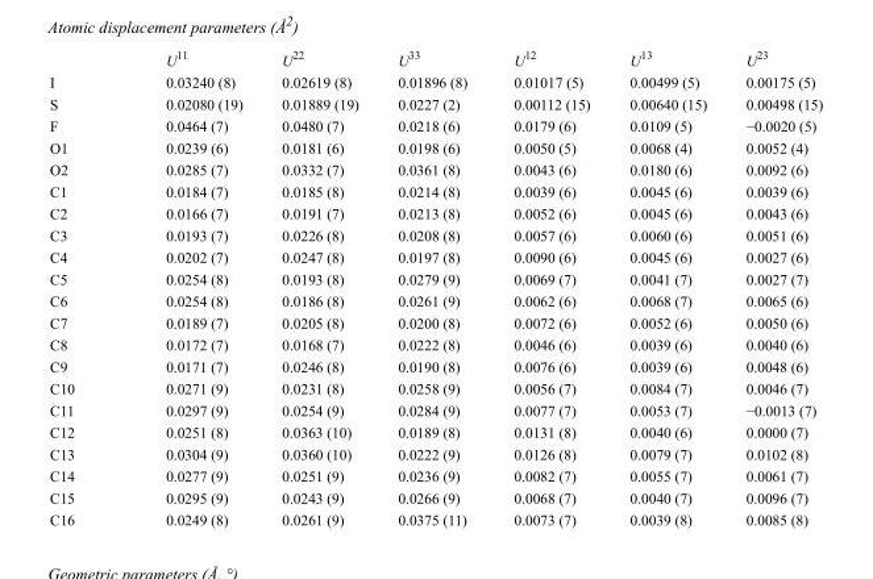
<table><thead><tr><td></td><td>U<sup>11</sup></td><td>U<sup>22</sup></td><td>U<sup>33</sup></td><td>U<sup>12</sup></td><td>U<sup>13</sup></td><td>U<sup>23</sup></td></tr></thead><tbody><tr><td>I</td><td>0.03240 (8)</td><td>0.02619 (8)</td><td>0.01896 (8)</td><td>0.01017 (5)</td><td>0.00499 (5)</td><td>0.00175 (5)</td></tr><tr><td>S</td><td>0.02080 (19)</td><td>0.01889 (19)</td><td>0.0227 (2)</td><td>0.00112 (15)</td><td>0.00640 (15)</td><td>0.00498 (15)</td></tr><tr><td>F</td><td>0.0464 (7)</td><td>0.0480 (7)</td><td>0.0218 (6)</td><td>0.0179 (6)</td><td>0.0109 (5)</td><td>−0.0020 (5)</td></tr><tr><td>O1</td><td>0.0239 (6)</td><td>0.0181 (6)</td><td>0.0198 (6)</td><td>0.0050 (5)</td><td>0.0068 (4)</td><td>0.0052 (4)</td></tr><tr><td>O2</td><td>0.0285 (7)</td><td>0.0332 (7)</td><td>0.0361 (8)</td><td>0.0043 (6)</td><td>0.0180 (6)</td><td>0.0092 (6)</td></tr><tr><td>C1</td><td>0.0184 (7)</td><td>0.0185 (8)</td><td>0.0214 (8)</td><td>0.0039 (6)</td><td>0.0045 (6)</td><td>0.0039 (6)</td></tr><tr><td>C2</td><td>0.0166 (7)</td><td>0.0191 (7)</td><td>0.0213 (8)</td><td>0.0052 (6)</td><td>0.0045 (6)</td><td>0.0043 (6)</td></tr><tr><td>C3</td><td>0.0193 (7)</td><td>0.0226 (8)</td><td>0.0208 (8)</td><td>0.0057 (6)</td><td>0.0060 (6)</td><td>0.0051 (6)</td></tr><tr><td>C4</td><td>0.0202 (7)</td><td>0.0247 (8)</td><td>0.0197 (8)</td><td>0.0090 (6)</td><td>0.0045 (6)</td><td>0.0027 (6)</td></tr><tr><td>C5</td><td>0.0254 (8)</td><td>0.0193 (8)</td><td>0.0279 (9)</td><td>0.0069 (7)</td><td>0.0041 (7)</td><td>0.0027 (7)</td></tr><tr><td>C6</td><td>0.0254 (8)</td><td>0.0186 (8)</td><td>0.0261 (9)</td><td>0.0062 (6)</td><td>0.0068 (7)</td><td>0.0065 (6)</td></tr><tr><td>C7</td><td>0.0189 (7)</td><td>0.0205 (8)</td><td>0.0200 (8)</td><td>0.0072 (6)</td><td>0.0052 (6)</td><td>0.0050 (6)</td></tr><tr><td>C8</td><td>0.0172 (7)</td><td>0.0168 (7)</td><td>0.0222 (8)</td><td>0.0046 (6)</td><td>0.0039 (6)</td><td>0.0040 (6)</td></tr><tr><td>C9</td><td>0.0171 (7)</td><td>0.0246 (8)</td><td>0.0190 (8)</td><td>0.0076 (6)</td><td>0.0039 (6)</td><td>0.0048 (6)</td></tr><tr><td>C10</td><td>0.0271 (9)</td><td>0.0231 (8)</td><td>0.0258 (9)</td><td>0.0056 (7)</td><td>0.0084 (7)</td><td>0.0046 (7)</td></tr><tr><td>C11</td><td>0.0297 (9)</td><td>0.0254 (9)</td><td>0.0284 (9)</td><td>0.0077 (7)</td><td>0.0053 (7)</td><td>−0.0013 (7)</td></tr><tr><td>C12</td><td>0.0251 (8)</td><td>0.0363 (10)</td><td>0.0189 (8)</td><td>0.0131 (8)</td><td>0.0040 (6)</td><td>0.0000 (7)</td></tr><tr><td>C13</td><td>0.0304 (9)</td><td>0.0360 (10)</td><td>0.0222 (9)</td><td>0.0126 (8)</td><td>0.0079 (7)</td><td>0.0102 (8)</td></tr><tr><td>C14</td><td>0.0277 (9)</td><td>0.0251 (9)</td><td>0.0236 (9)</td><td>0.0082 (7)</td><td>0.0055 (7)</td><td>0.0061 (7)</td></tr><tr><td>C15</td><td>0.0295 (9)</td><td>0.0243 (9)</td><td>0.0266 (9)</td><td>0.0068 (7)</td><td>0.0040 (7)</td><td>0.0096 (7)</td></tr><tr><td>C16</td><td>0.0249 (8)</td><td>0.0261 (9)</td><td>0.0375 (11)</td><td>0.0073 (7)</td><td>0.0039 (8)</td><td>0.0085 (8)</td></tr></tbody></table>